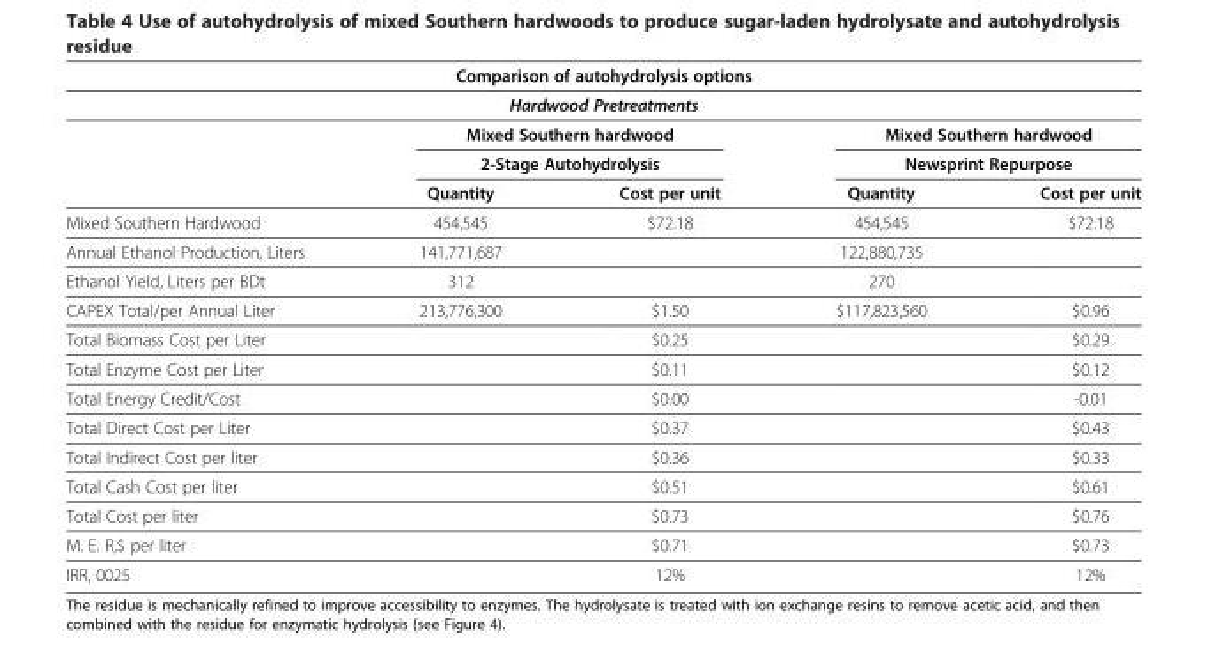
<table><thead><tr><td rowspan="2" colspan="5">Comparison of autohydrolysis options Hardwood Pretreatments</td></tr><tr></tr><tr><td rowspan="3"></td><td rowspan="2" colspan="2">Mixed Southern hardwood 2-Stage Autohydrolysis</td><td rowspan="2" colspan="2">Mixed Southern hardwood Newsprint Repurpose</td></tr><tr></tr><tr><td>Quantity</td><td>Cost per unit</td><td>Quantity</td><td>Cost per unit</td></tr></thead><tbody><tr><td>Mixed Southern Hardwood</td><td>454,545</td><td>$72.18</td><td>454,545</td><td>$72.18</td></tr><tr><td>Annual Ethanol Production, Liters</td><td>141,771,687</td><td></td><td>122,880,735</td><td></td></tr><tr><td>Ethanol Yield, Liters per BDt</td><td>312</td><td></td><td>270</td><td></td></tr><tr><td>CAPEX Total/per Annual Liter</td><td>213,776,300</td><td>$1.50</td><td>$117,823,560</td><td>$0.96</td></tr><tr><td>Total Biomass Cost per Liter</td><td></td><td>$0.25</td><td></td><td>$0.29</td></tr><tr><td>Total Enzyme Cost per Liter</td><td></td><td>$0.11</td><td></td><td>$0.12</td></tr><tr><td>Total Energy Credit/Cost</td><td></td><td>$0.00</td><td></td><td>-0.01</td></tr><tr><td>Total Direct Cost per Liter</td><td></td><td>$0.37</td><td></td><td>$0.43</td></tr><tr><td>Total Indirect Cost per liter</td><td></td><td>$0.36</td><td></td><td>$0.33</td></tr><tr><td>Total Cash Cost per liter</td><td></td><td>$0.51</td><td></td><td>$0.61</td></tr><tr><td>Total Cost per liter</td><td></td><td>$0.73</td><td></td><td>$0.76</td></tr><tr><td>M. E. R,$ per liter</td><td></td><td>$0.71</td><td></td><td>$0.73</td></tr><tr><td>IRR, 0025</td><td></td><td>12%</td><td></td><td>12%</td></tr></tbody></table>